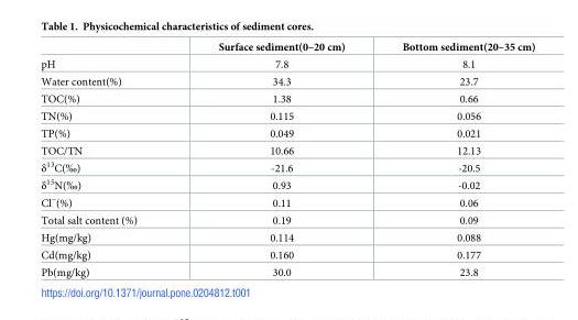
<table><thead><tr><td></td><td>Surface sediment(0–20 cm)</td><td>Bottom sediment(20–35 cm)</td></tr></thead><tbody><tr><td>pH</td><td>7.8</td><td>8.1</td></tr><tr><td>Water content(%)</td><td>34.3</td><td>23.7</td></tr><tr><td>TOC(%)</td><td>1.38</td><td>0.66</td></tr><tr><td>TN(%)</td><td>0.115</td><td>0.056</td></tr><tr><td>TP(%)</td><td>0.049</td><td>0.021</td></tr><tr><td>TOC/TN</td><td>10.66</td><td>12.13</td></tr><tr><td>δ<sup>13</sup>C(‰)</td><td>-21.6</td><td>-20.5</td></tr><tr><td>δ<sup>15</sup>N(‰)</td><td>0.93</td><td>-0.02</td></tr><tr><td>Cl<sup>−</sup>(%)</td><td>0.11</td><td>0.06</td></tr><tr><td>Total salt content (%)</td><td>0.19</td><td>0.09</td></tr><tr><td>Hg(mg/kg)</td><td>0.114</td><td>0.088</td></tr><tr><td>Cd(mg/kg)</td><td>0.160</td><td>0.177</td></tr><tr><td>Pb(mg/kg)</td><td>30.0</td><td>23.8</td></tr></tbody></table>